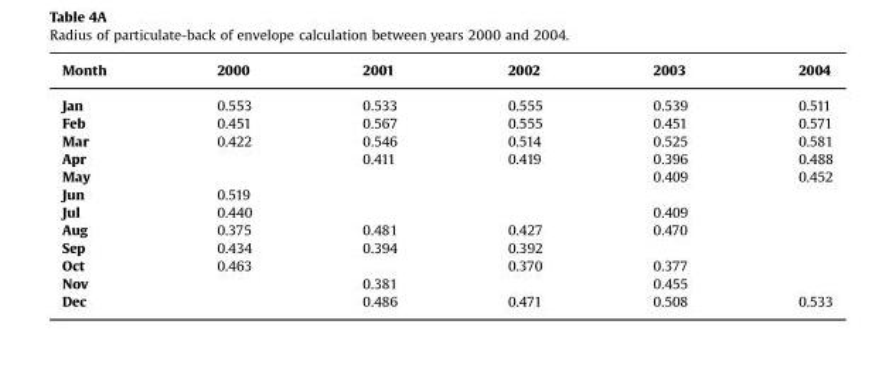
<table><thead><tr><td>Month</td><td>2000</td><td>2001</td><td>2002</td><td>2003</td><td>2004</td></tr></thead><tbody><tr><td>Jan</td><td>0.553</td><td>0.533</td><td>0.555</td><td>0.539</td><td>0.511</td></tr><tr><td>Feb</td><td>0.451</td><td>0.567</td><td>0.555</td><td>0.451</td><td>0.571</td></tr><tr><td>Mar</td><td>0.422</td><td>0.546</td><td>0.514</td><td>0.525</td><td>0.581</td></tr><tr><td>Apr</td><td></td><td>0.411</td><td>0.419</td><td>0.396</td><td>0.488</td></tr><tr><td>May</td><td></td><td></td><td></td><td>0.409</td><td>0.452</td></tr><tr><td>Jun</td><td>0.519</td><td></td><td></td><td></td><td></td></tr><tr><td>Jul</td><td>0.440</td><td></td><td></td><td>0.409</td><td></td></tr><tr><td>Aug</td><td>0.375</td><td>0.481</td><td>0.427</td><td>0.470</td><td></td></tr><tr><td>Sep</td><td>0.434</td><td>0.394</td><td>0.392</td><td></td><td></td></tr><tr><td>Oct</td><td>0.463</td><td></td><td>0.370</td><td>0.377</td><td></td></tr><tr><td>Nov</td><td></td><td>0.381</td><td></td><td>0.455</td><td></td></tr><tr><td>Dec</td><td></td><td>0.486</td><td>0.471</td><td>0.508</td><td>0.533</td></tr></tbody></table>